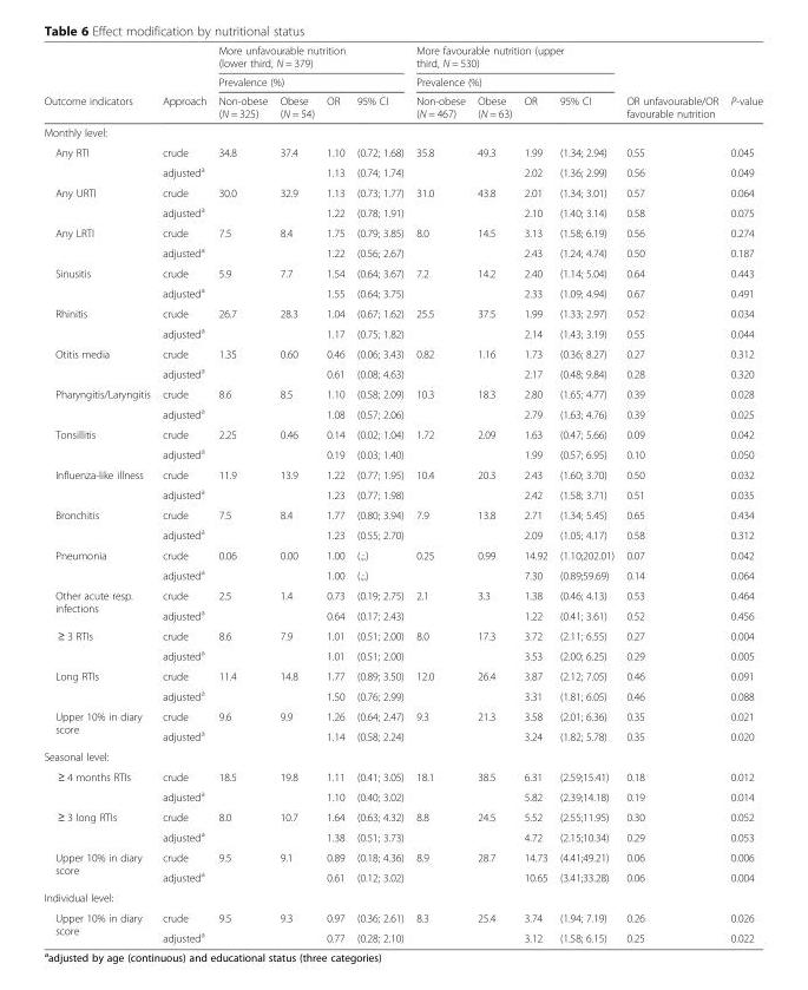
<table><thead><tr><td rowspan="3">Outcome indicators</td><td rowspan="3">Approach</td><td rowspan="2" colspan="4">More unfavourable nutrition (lower third, N = 379) Prevalence (%)</td><td rowspan="2" colspan="4">More favourable nutrition (upper third, N = 530) Prevalence (%)</td><td rowspan="3">OR unfavourable/OR favourable nutrition</td><td rowspan="3">P-value</td></tr><tr></tr><tr><td>Non-obese (N = 325)</td><td>Obese (N = 54)</td><td>OR</td><td>95% CI</td><td>Non-obese (N = 467)</td><td>Obese (N = 63)</td><td>OR</td><td>95% CI</td></tr></thead><tbody><tr><td colspan="12">Monthly level:</td></tr><tr><td rowspan="2">Any RTI</td><td>crude</td><td>34.8</td><td>37.4</td><td>1.10</td><td>(0.72; 1.68)</td><td>35.8</td><td>49.3</td><td>1.99</td><td>(1.34; 2.94)</td><td>0.55</td><td>0.045</td></tr><tr><td>adjusted<sup>a</sup></td><td></td><td></td><td>1.13</td><td>(0.74; 1.74)</td><td></td><td></td><td>2.02</td><td>(1.36; 2.99)</td><td>0.56</td><td>0.049</td></tr><tr><td rowspan="2">Any URTI</td><td>crude</td><td>30.0</td><td>32.9</td><td>1.13</td><td>(0.73; 1.77)</td><td>31.0</td><td>43.8</td><td>2.01</td><td>(1.34; 3.01)</td><td>0.57</td><td>0.064</td></tr><tr><td>adjusted<sup>a</sup></td><td></td><td></td><td>1.22</td><td>(0.78; 1.91)</td><td></td><td></td><td>2.10</td><td>(1.40; 3.14)</td><td>0.58</td><td>0.075</td></tr><tr><td rowspan="2">Any LRTI</td><td>crude</td><td>7.5</td><td>8.4</td><td>1.75</td><td>(0.79; 3.85)</td><td>8.0</td><td>14.5</td><td>3.13</td><td>(1.58; 6.19)</td><td>0.56</td><td>0.274</td></tr><tr><td>adjusted<sup>a</sup></td><td></td><td></td><td>1.22</td><td>(0.56; 2.67)</td><td></td><td></td><td>2.43</td><td>(1.24; 4.74)</td><td>0.50</td><td>0.187</td></tr><tr><td rowspan="2">Sinusitis</td><td>crude</td><td>5.9</td><td>7.7</td><td>1.54</td><td>(0.64; 3.67)</td><td>7.2</td><td>14.2</td><td>2.40</td><td>(1.14; 5.04)</td><td>0.64</td><td>0.443</td></tr><tr><td>adjusted<sup>a</sup></td><td></td><td></td><td>1.55</td><td>(0.64; 3.75)</td><td></td><td></td><td>2.33</td><td>(1.09; 4.94)</td><td>0.67</td><td>0.491</td></tr><tr><td rowspan="2">Rhinitis</td><td>crude</td><td>26.7</td><td>28.3</td><td>1.04</td><td>(0.67; 1.62)</td><td>25.5</td><td>37.5</td><td>1.99</td><td>(1.33; 2.97)</td><td>0.52</td><td>0.034</td></tr><tr><td>adjusted<sup>a</sup></td><td></td><td></td><td>1.17</td><td>(0.75; 1.82)</td><td></td><td></td><td>2.14</td><td>(1.43; 3.19)</td><td>0.55</td><td>0.044</td></tr><tr><td rowspan="2">Otitis media</td><td>crude</td><td>1.35</td><td>0.60</td><td>0.46</td><td>(0.06; 3.43)</td><td>0.82</td><td>1.16</td><td>1.73</td><td>(0.36; 8.27)</td><td>0.27</td><td>0.312</td></tr><tr><td>adjusted<sup>a</sup></td><td></td><td></td><td>0.61</td><td>(0.08; 4.63)</td><td></td><td></td><td>2.17</td><td>(0.48; 9.84)</td><td>0.28</td><td>0.320</td></tr><tr><td rowspan="2">Pharyngitis/Laryngitis</td><td>crude</td><td>8.6</td><td>8.5</td><td>1.10</td><td>(0.58; 2.09)</td><td>10.3</td><td>18.3</td><td>2.80</td><td>(1.65; 4.77)</td><td>0.39</td><td>0.028</td></tr><tr><td>adjusted<sup>a</sup></td><td></td><td></td><td>1.08</td><td>(0.57; 2.06)</td><td></td><td></td><td>2.79</td><td>(1.63; 4.76)</td><td>0.39</td><td>0.025</td></tr><tr><td rowspan="2">Tonsillitis</td><td>crude</td><td>2.25</td><td>0.46</td><td>0.14</td><td>(0.02; 1.04)</td><td>1.72</td><td>2.09</td><td>1.63</td><td>(0.47; 5.66)</td><td>0.09</td><td>0.042</td></tr><tr><td>adjusted<sup>a</sup></td><td></td><td></td><td>0.19</td><td>(0.03; 1.40)</td><td></td><td></td><td>1.99</td><td>(0.57; 6.95)</td><td>0.10</td><td>0.050</td></tr><tr><td rowspan="2">Influenza-like illness</td><td>crude</td><td>11.9</td><td>13.9</td><td>1.22</td><td>(0.77; 1.95)</td><td>10.4</td><td>20.3</td><td>2.43</td><td>(1.60; 3.70)</td><td>0.50</td><td>0.032</td></tr><tr><td>adjusted<sup>a</sup></td><td></td><td></td><td>1.23</td><td>(0.77; 1.98)</td><td></td><td></td><td>2.42</td><td>(1.58; 3.71)</td><td>0.51</td><td>0.035</td></tr><tr><td rowspan="2">Bronchitis</td><td>crude</td><td>7.5</td><td>8.4</td><td>1.77</td><td>(0.80; 3.94)</td><td>7.9</td><td>13.8</td><td>2.71</td><td>(1.34; 5.45)</td><td>0.65</td><td>0.434</td></tr><tr><td>adjusted<sup>a</sup></td><td></td><td></td><td>1.23</td><td>(0.55; 2.70)</td><td></td><td></td><td>2.09</td><td>(1.05; 4.17)</td><td>0.58</td><td>0.312</td></tr><tr><td rowspan="2">Pneumonia</td><td>crude</td><td>0.06</td><td>0.00</td><td>1.00</td><td>(.;.)</td><td>0.25</td><td>0.99</td><td>14.92</td><td>(1.10;202.01)</td><td>0.07</td><td>0.042</td></tr><tr><td>adjusted<sup>a</sup></td><td></td><td></td><td>1.00</td><td>(.;.)</td><td></td><td></td><td>7.30</td><td>(0.89;59.69)</td><td>0.14</td><td>0.064</td></tr><tr><td rowspan="2">Other acute resp. infections</td><td>crude</td><td>2.5</td><td>1.4</td><td>0.73</td><td>(0.19; 2.75)</td><td>2.1</td><td>3.3</td><td>1.38</td><td>(0.46; 4.13)</td><td>0.53</td><td>0.464</td></tr><tr><td>adjusted<sup>a</sup></td><td></td><td></td><td>0.64</td><td>(0.17; 2.43)</td><td></td><td></td><td>1.22</td><td>(0.41; 3.61)</td><td>0.52</td><td>0.456</td></tr><tr><td rowspan="2">≥ 3 RTIs</td><td>crude</td><td>8.6</td><td>7.9</td><td>1.01</td><td>(0.51; 2.00)</td><td>8.0</td><td>17.3</td><td>3.72</td><td>(2.11; 6.55)</td><td>0.27</td><td>0.004</td></tr><tr><td>adjusted<sup>a</sup></td><td></td><td></td><td>1.01</td><td>(0.51; 2.00)</td><td></td><td></td><td>3.53</td><td>(2.00; 6.25)</td><td>0.29</td><td>0.005</td></tr><tr><td rowspan="2">Long RTIs</td><td>crude</td><td>11.4</td><td>14.8</td><td>1.77</td><td>(0.89; 3.50)</td><td>12.0</td><td>26.4</td><td>3.87</td><td>(2.12; 7.05)</td><td>0.46</td><td>0.091</td></tr><tr><td>adjusted<sup>a</sup></td><td></td><td></td><td>1.50</td><td>(0.76; 2.99)</td><td></td><td></td><td>3.31</td><td>(1.81; 6.05)</td><td>0.46</td><td>0.088</td></tr><tr><td rowspan="2">Upper 10% in diary score</td><td>crude</td><td>9.6</td><td>9.9</td><td>1.26</td><td>(0.64; 2.47)</td><td>9.3</td><td>21.3</td><td>3.58</td><td>(2.01; 6.36)</td><td>0.35</td><td>0.021</td></tr><tr><td>adjusted<sup>a</sup></td><td></td><td></td><td>1.14</td><td>(0.58; 2.24)</td><td></td><td></td><td>3.24</td><td>(1.82; 5.78)</td><td>0.35</td><td>0.020</td></tr><tr><td colspan="12">Seasonal level:</td></tr><tr><td rowspan="2">≥ 4 months RTIs</td><td>crude</td><td>18.5</td><td>19.8</td><td>1.11</td><td>(0.41; 3.05)</td><td>18.1</td><td>38.5</td><td>6.31</td><td>(2.59;15.41)</td><td>0.18</td><td>0.012</td></tr><tr><td>adjusted<sup>a</sup></td><td></td><td></td><td>1.10</td><td>(0.40; 3.02)</td><td></td><td></td><td>5.82</td><td>(2.39;14.18)</td><td>0.19</td><td>0.014</td></tr><tr><td rowspan="2">≥ 3 long RTIs</td><td>crude</td><td>8.0</td><td>10.7</td><td>1.64</td><td>(0.63; 4.32)</td><td>8.8</td><td>24.5</td><td>5.52</td><td>(2.55;11.95)</td><td>0.30</td><td>0.052</td></tr><tr><td>adjusted<sup>a</sup></td><td></td><td></td><td>1.38</td><td>(0.51; 3.73)</td><td></td><td></td><td>4.72</td><td>(2.15;10.34)</td><td>0.29</td><td>0.053</td></tr><tr><td rowspan="2">Upper 10% in diary score</td><td>crude</td><td>9.5</td><td>9.1</td><td>0.89</td><td>(0.18; 4.36)</td><td>8.9</td><td>28.7</td><td>14.73</td><td>(4.41;49.21)</td><td>0.06</td><td>0.006</td></tr><tr><td>adjusted<sup>a</sup></td><td></td><td></td><td>0.61</td><td>(0.12; 3.02)</td><td></td><td></td><td>10.65</td><td>(3.41;33.28)</td><td>0.06</td><td>0.004</td></tr><tr><td colspan="12">Individual level:</td></tr><tr><td rowspan="2">Upper 10% in diary score</td><td>crude</td><td>9.5</td><td>9.3</td><td>0.97</td><td>(0.36; 2.61)</td><td>8.3</td><td>25.4</td><td>3.74</td><td>(1.94; 7.19)</td><td>0.26</td><td>0.026</td></tr><tr><td>adjusted<sup>a</sup></td><td></td><td></td><td>0.77</td><td>(0.28; 2.10)</td><td></td><td></td><td>3.12</td><td>(1.58; 6.15)</td><td>0.25</td><td>0.022</td></tr></tbody></table>